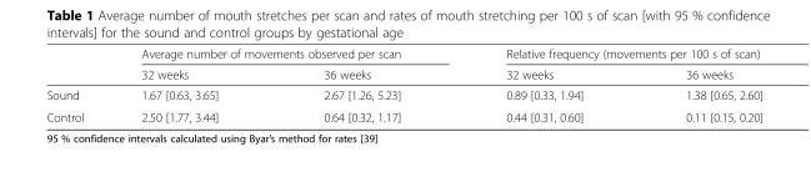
<table><thead><tr><td rowspan="2"></td><td colspan="2">Average number of movements observed per scan</td><td colspan="2">Relative frequency (movements per 100 s of scan)</td></tr><tr><td>32 weeks</td><td>36 weeks</td><td>32 weeks</td><td>36 weeks</td></tr></thead><tbody><tr><td>Sound</td><td>1.67 [0.63, 3.65]</td><td>2.67 [1.26, 5.23]</td><td>0.89 [0.33, 1.94]</td><td>1.38 [0.65, 2.60]</td></tr><tr><td>Control</td><td>2.50 [1.77, 3.44]</td><td>0.64 [0.32, 1.17]</td><td>0.44 [0.31, 0.60]</td><td>0.11 [0.15, 0.20]</td></tr></tbody></table>